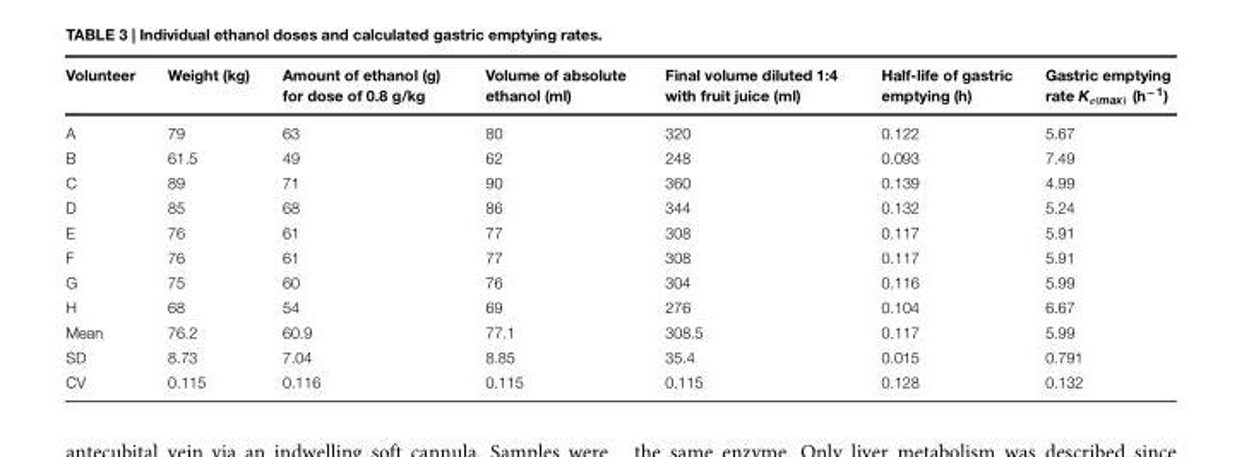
<table><thead><tr><td>Volunteer</td><td>Weight (kg)</td><td>Amount of ethanol (g) for dose of 0.8 g/kg</td><td>Volume of absolute ethanol (ml)</td><td>Final volume diluted 1:4 with fruit juice (ml)</td><td>Half-life of gastric emptying (h)</td><td>Gastric emptying rate K<sub>e(max)</sub> (h<sup>−1</sup>)</td></tr></thead><tbody><tr><td>A</td><td>79</td><td>63</td><td>80</td><td>320</td><td>0.122</td><td>5.67</td></tr><tr><td>B</td><td>61.5</td><td>49</td><td>62</td><td>248</td><td>0.093</td><td>7.49</td></tr><tr><td>C</td><td>89</td><td>71</td><td>90</td><td>360</td><td>0.139</td><td>4.99</td></tr><tr><td>D</td><td>85</td><td>68</td><td>86</td><td>344</td><td>0.132</td><td>5.24</td></tr><tr><td>E</td><td>76</td><td>61</td><td>77</td><td>308</td><td>0.117</td><td>5.91</td></tr><tr><td>F</td><td>76</td><td>61</td><td>77</td><td>308</td><td>0.117</td><td>5.91</td></tr><tr><td>G</td><td>75</td><td>60</td><td>76</td><td>304</td><td>0.116</td><td>5.99</td></tr><tr><td>H</td><td>68</td><td>54</td><td>69</td><td>276</td><td>0.104</td><td>6.67</td></tr><tr><td>Mean</td><td>76.2</td><td>60.9</td><td>77.1</td><td>308.5</td><td>0.117</td><td>5.99</td></tr><tr><td>SD</td><td>8.73</td><td>7.04</td><td>8.85</td><td>35.4</td><td>0.015</td><td>0.791</td></tr><tr><td>CV</td><td>0.115</td><td>0.116</td><td>0.115</td><td>0.115</td><td>0.128</td><td>0.132</td></tr></tbody></table>